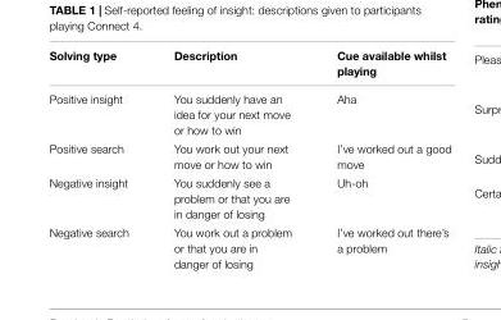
<table><thead><tr><td>Solving type</td><td>Description</td><td>Cue available whilst playing</td></tr></thead><tbody><tr><td>Positive insight</td><td>You suddenly have an idea for your next move or how to win</td><td>Aha</td></tr><tr><td>Positive search</td><td>You work out your next move or how to win</td><td>I’ve worked out a good move</td></tr><tr><td>Negative insight</td><td>You suddenly see a problem or that you are in danger of losing</td><td>Uh-oh</td></tr><tr><td>Negative search</td><td>You work out a problem or that you are in danger of losing</td><td>I’ve worked out there’s a problem</td></tr></tbody></table>